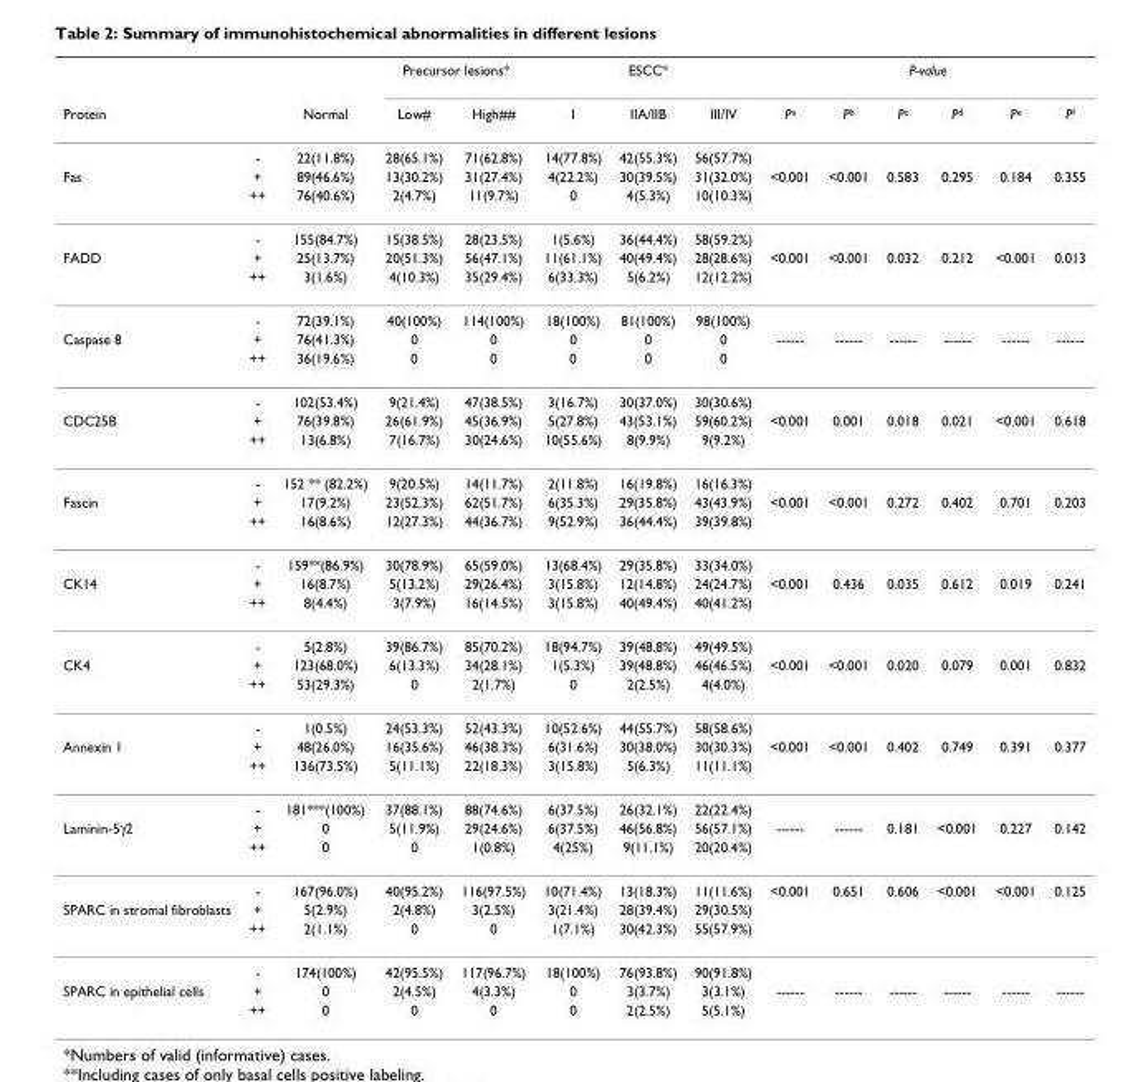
<table><thead><tr><td rowspan="2">Protein</td><td rowspan="2"></td><td rowspan="2">Normal</td><td colspan="2">Precursor lesions*</td><td colspan="3">ESCC*</td><td colspan="6">P-value</td></tr><tr><td>Low#</td><td>High##</td><td>I</td><td>IIA/IIB</td><td>III/IV</td><td>Pa</td><td>Pb</td><td>Pc</td><td>Pd</td><td>Pe</td><td>Pf</td></tr></thead><tbody><tr><td></td><td>-</td><td>22(11.8%)</td><td>28(65.1%)</td><td>71(62.8%)</td><td>14(77.8%)</td><td>42(55.3%)</td><td>56(57.7%)</td><td></td><td></td><td></td><td></td><td></td><td></td></tr><tr><td rowspan="3">Fas</td><td>+</td><td>89(46.6%)</td><td>13(30.2%)</td><td>31(27.4%)</td><td>4(22.2%)</td><td>30(39.5%)</td><td>31(32.0%)</td><td>&lt;0.001</td><td>&lt;0.001</td><td>0.583</td><td>0.295</td><td>0.184</td><td>0.355</td></tr><tr><td>++</td><td>76(40.6%)</td><td>2(4.7%)</td><td>11(9.7%)</td><td>0</td><td>4(5.3%)</td><td>10(10.3%)</td><td></td><td></td><td></td><td></td><td></td><td></td></tr><tr><td>-</td><td>155(84.7%)</td><td>15(38.5%)</td><td>28(23.5%)</td><td>1(5.6%)</td><td>36(44.4%)</td><td>58(59.2%)</td><td></td><td></td><td></td><td></td><td></td><td></td></tr><tr><td rowspan="3">FADD</td><td>+</td><td>25(13.7%)</td><td>20(51.3%)</td><td>56(47.1%)</td><td>11(61.1%)</td><td>40(49.4%)</td><td>28(28.6%)</td><td>&lt;0.001</td><td>&lt;0.001</td><td>0.032</td><td>0.212</td><td>&lt;0.001</td><td>0.013</td></tr><tr><td>++</td><td>3(1.6%)</td><td>4(10.3%)</td><td>35(29.4%)</td><td>6(33.3%)</td><td>5(6.2%)</td><td>12(12.2%)</td><td></td><td></td><td></td><td></td><td></td><td></td></tr><tr><td>-</td><td>72(39.1%)</td><td>40(100%)</td><td>114(100%)</td><td>18(100%)</td><td>81(100%)</td><td>98(100%)</td><td></td><td></td><td></td><td></td><td></td><td></td></tr><tr><td rowspan="3">Caspase 8</td><td>+</td><td>76(41.3%)</td><td>0</td><td>0</td><td>0</td><td>0</td><td>0</td><td>------</td><td>------</td><td>------</td><td>------</td><td>------</td><td>------</td></tr><tr><td>++</td><td>36(19.6%)</td><td>0</td><td>0</td><td>0</td><td>0</td><td>0</td><td></td><td></td><td></td><td></td><td></td><td></td></tr><tr><td>-</td><td>102(53.4%)</td><td>9(21.4%)</td><td>47(38.5%)</td><td>3(16.7%)</td><td>30(37.0%)</td><td>30(30.6%)</td><td></td><td></td><td></td><td></td><td></td><td></td></tr><tr><td rowspan="3">CDC25B</td><td>+</td><td>76(39.8%)</td><td>26(61.9%)</td><td>45(36.9%)</td><td>5(27.8%)</td><td>43(53.1%)</td><td>59(60.2%)</td><td>&lt;0.001</td><td>0.001</td><td>0.018</td><td>0.021</td><td>&lt;0.001</td><td>0.618</td></tr><tr><td>++</td><td>13(6.8%)</td><td>7(16.7%)</td><td>30(24.6%)</td><td>10(55.6%)</td><td>8(9.9%)</td><td>9(9.2%)</td><td></td><td></td><td></td><td></td><td></td><td></td></tr><tr><td>-</td><td>152 ** (82.2%)</td><td>9(20.5%)</td><td>14(11.7%)</td><td>2(11.8%)</td><td>16(19.8%)</td><td>16(16.3%)</td><td></td><td></td><td></td><td></td><td></td><td></td></tr><tr><td rowspan="3">Fascin</td><td>+</td><td>17(9.2%)</td><td>23(52.3%)</td><td>62(51.7%)</td><td>6(35.3%)</td><td>29(35.8%)</td><td>43(43.9%)</td><td>&lt;0.001</td><td>&lt;0.001</td><td>0.272</td><td>0.402</td><td>0.701</td><td>0.203</td></tr><tr><td>++</td><td>16(8.6%)</td><td>12(27.3%)</td><td>44(36.7%)</td><td>9(52.9%)</td><td>36(44.4%)</td><td>39(39.8%)</td><td></td><td></td><td></td><td></td><td></td><td></td></tr><tr><td>-</td><td>159**(86.9%)</td><td>30(78.9%)</td><td>65(59.0%)</td><td>13(68.4%)</td><td>29(35.8%)</td><td>33(34.0%)</td><td></td><td></td><td></td><td></td><td></td><td></td></tr><tr><td rowspan="3">CK14</td><td>+</td><td>16(8.7%)</td><td>5(13.2%)</td><td>29(26.4%)</td><td>3(15.8%)</td><td>12(14.8%)</td><td>24(24.7%)</td><td>&lt;0.001</td><td>0.436</td><td>0.035</td><td>0.612</td><td>0.019</td><td>0.241</td></tr><tr><td>++</td><td>8(4.4%)</td><td>3(7.9%)</td><td>16(14.5%)</td><td>3(15.8%)</td><td>40(49.4%)</td><td>40(41.2%)</td><td></td><td></td><td></td><td></td><td></td><td></td></tr><tr><td>-</td><td>5(2.8%)</td><td>39(86.7%)</td><td>85(70.2%)</td><td>18(94.7%)</td><td>39(48.8%)</td><td>49(49.5%)</td><td></td><td></td><td></td><td></td><td></td><td></td></tr><tr><td rowspan="3">CK4</td><td>+</td><td>123(68.0%)</td><td>6(13.3%)</td><td>34(28.1%)</td><td>1(5.3%)</td><td>39(48.8%)</td><td>46(46.5%)</td><td>&lt;0.001</td><td>&lt;0.001</td><td>0.020</td><td>0.079</td><td>0.001</td><td>0.832</td></tr><tr><td>++</td><td>53(29.3%)</td><td>0</td><td>2(1.7%)</td><td>0</td><td>2(2.5%)</td><td>4(4.0%)</td><td></td><td></td><td></td><td></td><td></td><td></td></tr><tr><td>-</td><td>1(0.5%)</td><td>24(53.3%)</td><td>52(43.3%)</td><td>10(52.6%)</td><td>44(55.7%)</td><td>58(58.6%)</td><td></td><td></td><td></td><td></td><td></td><td></td></tr><tr><td rowspan="3">Annexin 1</td><td>+</td><td>48(26.0%)</td><td>16(35.6%)</td><td>46(38.3%)</td><td>6(31.6%)</td><td>30(38.0%)</td><td>30(30.3%)</td><td>&lt;0.001</td><td>&lt;0.001</td><td>0.402</td><td>0.749</td><td>0.391</td><td>0.377</td></tr><tr><td>++</td><td>136(73.5%)</td><td>5(11.1%)</td><td>22(18.3%)</td><td>3(15.8%)</td><td>5(6.3%)</td><td>11(11.1%)</td><td></td><td></td><td></td><td></td><td></td><td></td></tr><tr><td>-</td><td>181***(100%)</td><td>37(88.1%)</td><td>88(74.6%)</td><td>6(37.5%)</td><td>26(32.1%)</td><td>22(22.4%)</td><td></td><td></td><td></td><td></td><td></td><td></td></tr><tr><td rowspan="3">Laminin-5γ2</td><td>+</td><td>0</td><td>5(11.9%)</td><td>29(24.6%)</td><td>6(37.5%)</td><td>46(56.8%)</td><td>56(57.1%)</td><td>------</td><td>------</td><td>0.181</td><td>&lt;0.001</td><td>0.227</td><td>0.142</td></tr><tr><td>++</td><td>0</td><td>0</td><td>1(0.8%)</td><td>4(25%)</td><td>9(11.1%)</td><td>20(20.4%)</td><td></td><td></td><td></td><td></td><td></td><td></td></tr><tr><td>-</td><td>167(96.0%)</td><td>40(95.2%)</td><td>116(97.5%)</td><td>10(71.4%)</td><td>13(18.3%)</td><td>11(11.6%)</td><td>&lt;0.001</td><td>0.651</td><td>0.606</td><td>&lt;0.001</td><td>&lt;0.001</td><td>0.125</td></tr><tr><td rowspan="3">SPARC in stromal fibroblasts</td><td>+</td><td>5(2.9%)</td><td>2(4.8%)</td><td>3(2.5%)</td><td>3(21.4%)</td><td>28(39.4%)</td><td>29(30.5%)</td><td></td><td></td><td></td><td></td><td></td><td></td></tr><tr><td>++</td><td>2(1.1%)</td><td>0</td><td>0</td><td>1(7.1%)</td><td>30(42.3%)</td><td>55(57.9%)</td><td></td><td></td><td></td><td></td><td></td><td></td></tr><tr><td>-</td><td>174(100%)</td><td>42(95.5%)</td><td>117(96.7%)</td><td>18(100%)</td><td>76(93.8%)</td><td>90(91.8%)</td><td></td><td></td><td></td><td></td><td></td><td></td></tr><tr><td rowspan="2">SPARC in epithelial cells</td><td>+</td><td>0</td><td>2(4.5%)</td><td>4(3.3%)</td><td>0</td><td>3(3.7%)</td><td>3(3.1%)</td><td>------</td><td>------</td><td>------</td><td>------</td><td>------</td><td>------</td></tr><tr><td>++</td><td>0</td><td>0</td><td>0</td><td>0</td><td>2(2.5%)</td><td>5(5.1%)</td><td></td><td></td><td></td><td></td><td></td><td></td></tr></tbody></table>